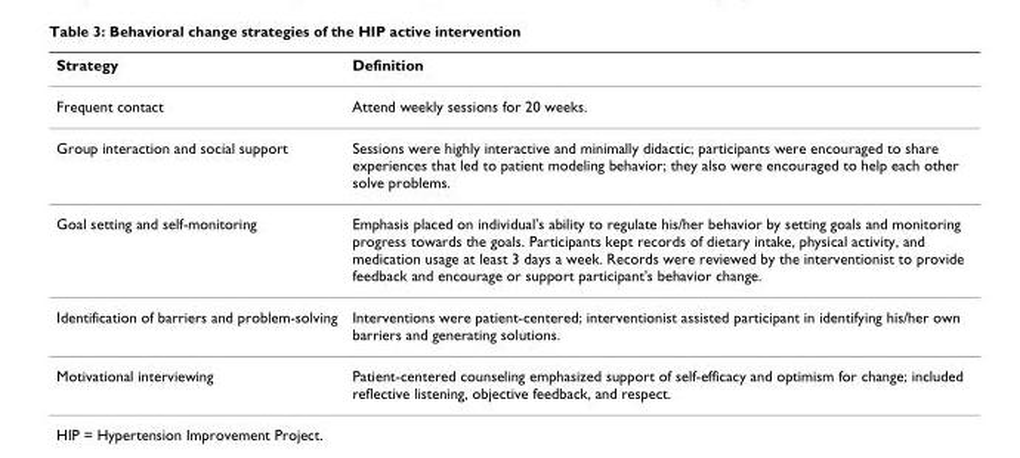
<table><thead><tr><td>Strategy</td><td>Definition</td></tr></thead><tbody><tr><td>Frequent contact</td><td>Attend weekly sessions for 20 weeks.</td></tr><tr><td>Group interaction and social support</td><td>Sessions were highly interactive and minimally didactic; participants were encouraged to share experiences that led to patient modeling behavior; they also were encouraged to help each other solve problems.</td></tr><tr><td>Goal setting and self-monitoring</td><td>Emphasis placed on individual&#x27;s ability to regulate his/her behavior by setting goals and monitoring progress towards the goals. Participants kept records of dietary intake, physical activity, and medication usage at least 3 days a week. Records were reviewed by the interventionist to provide feedback and encourage or support participant&#x27;s behavior change.</td></tr><tr><td>Identification of barriers and problem-solving</td><td>Interventions were patient-centered; interventionist assisted participant in identifying his/her own barriers and generating solutions.</td></tr><tr><td>Motivational interviewing</td><td>Patient-centered counseling emphasized support of self-efficacy and optimism for change; included reflective listening, objective feedback, and respect.</td></tr></tbody></table>